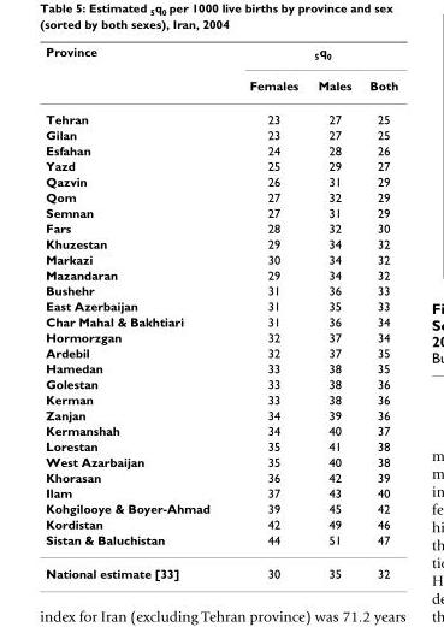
<table><thead><tr><td rowspan="2">Province</td><td colspan="3"><sub>5</sub>q<sub>0</sub></td></tr><tr><td>Females</td><td>Males</td><td>Both</td></tr></thead><tbody><tr><td>Tehran</td><td>23</td><td>27</td><td>25</td></tr><tr><td>Gilan</td><td>23</td><td>27</td><td>25</td></tr><tr><td>Esfahan</td><td>24</td><td>28</td><td>26</td></tr><tr><td>Yazd</td><td>25</td><td>29</td><td>27</td></tr><tr><td>Qazvin</td><td>26</td><td>31</td><td>29</td></tr><tr><td>Qom</td><td>27</td><td>32</td><td>29</td></tr><tr><td>Semnan</td><td>27</td><td>31</td><td>29</td></tr><tr><td>Fars</td><td>28</td><td>32</td><td>30</td></tr><tr><td>Khuzestan</td><td>29</td><td>34</td><td>32</td></tr><tr><td>Markazi</td><td>30</td><td>34</td><td>32</td></tr><tr><td>Mazandaran</td><td>29</td><td>34</td><td>32</td></tr><tr><td>Bushehr</td><td>31</td><td>36</td><td>33</td></tr><tr><td>East Azerbaijan</td><td>31</td><td>35</td><td>33</td></tr><tr><td>Char Mahal &amp; Bakhtiari</td><td>31</td><td>36</td><td>34</td></tr><tr><td>Hormorzgan</td><td>32</td><td>37</td><td>34</td></tr><tr><td>Ardebil</td><td>32</td><td>37</td><td>35</td></tr><tr><td>Hamedan</td><td>33</td><td>38</td><td>35</td></tr><tr><td>Golestan</td><td>33</td><td>38</td><td>36</td></tr><tr><td>Kerman</td><td>33</td><td>38</td><td>36</td></tr><tr><td>Zanjan</td><td>34</td><td>39</td><td>36</td></tr><tr><td>Kermanshah</td><td>34</td><td>40</td><td>37</td></tr><tr><td>Lorestan</td><td>35</td><td>41</td><td>38</td></tr><tr><td>West Azarbaijan</td><td>35</td><td>40</td><td>38</td></tr><tr><td>Khorasan</td><td>36</td><td>42</td><td>39</td></tr><tr><td>Ilam</td><td>37</td><td>43</td><td>40</td></tr><tr><td>Kohgilooye &amp; Boyer-Ahmad</td><td>39</td><td>45</td><td>42</td></tr><tr><td>Kordistan</td><td>42</td><td>49</td><td>46</td></tr><tr><td>Sistan &amp; Baluchistan</td><td>44</td><td>51</td><td>47</td></tr><tr><td>National estimate [33]</td><td>30</td><td>35</td><td>32</td></tr></tbody></table>